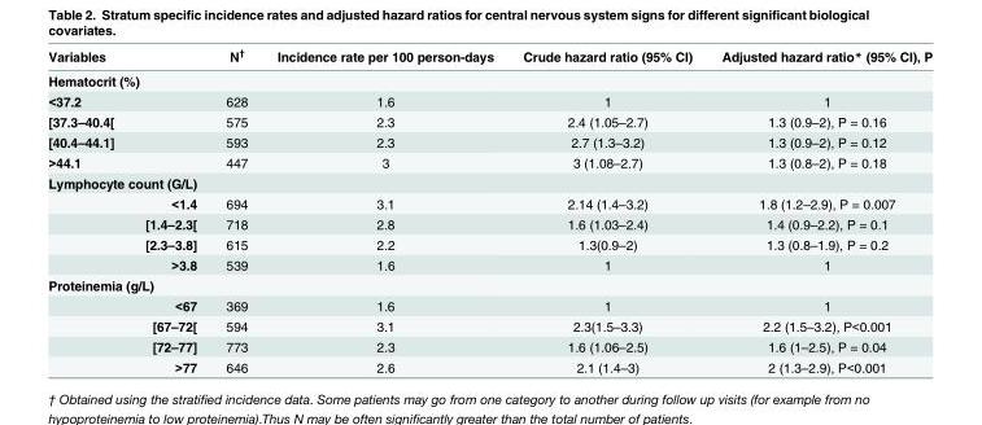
<table><thead><tr><td>Variables</td><td>N<sup>†</sup></td><td>Incidence rate per 100 person-days</td><td>Crude hazard ratio (95% CI)</td><td>Adjusted hazard ratio* (95% CI), P</td></tr></thead><tbody><tr><td colspan="5">Hematocrit (%)</td></tr><tr><td>&lt;37.2</td><td>628</td><td>1.6</td><td>1</td><td>1</td></tr><tr><td>[37.3–40.4[</td><td>575</td><td>2.3</td><td>2.4 (1.05–2.7)</td><td>1.3 (0.9–2), P = 0.16</td></tr><tr><td>[40.4–44.1]</td><td>593</td><td>2.3</td><td>2.7 (1.3–3.2)</td><td>1.3 (0.9–2), P = 0.12</td></tr><tr><td>&gt;44.1</td><td>447</td><td>3</td><td>3 (1.08–2.7)</td><td>1.3 (0.8–2), P = 0.18</td></tr><tr><td colspan="5">Lymphocyte count (G/L)</td></tr><tr><td>&lt;1.4</td><td>694</td><td>3.1</td><td>2.14 (1.4–3.2)</td><td>1.8 (1.2–2.9), P = 0.007</td></tr><tr><td>[1.4–2.3[</td><td>718</td><td>2.8</td><td>1.6 (1.03–2.4)</td><td>1.4 (0.9–2.2), P = 0.1</td></tr><tr><td>[2.3–3.8]</td><td>615</td><td>2.2</td><td>1.3(0.9–2)</td><td>1.3 (0.8–1.9), P = 0.2</td></tr><tr><td>&gt;3.8</td><td>539</td><td>1.6</td><td>1</td><td>1</td></tr><tr><td colspan="5">Proteinemia (g/L)</td></tr><tr><td>&lt;67</td><td>369</td><td>1.6</td><td>1</td><td>1</td></tr><tr><td>[67–72[</td><td>594</td><td>3.1</td><td>2.3(1.5–3.3)</td><td>2.2 (1.5–3.2), P&lt;0.001</td></tr><tr><td>[72–77]</td><td>773</td><td>2.3</td><td>1.6 (1.06–2.5)</td><td>1.6 (1–2.5), P = 0.04</td></tr><tr><td>&gt;77</td><td>646</td><td>2.6</td><td>2.1 (1.4–3)</td><td>2 (1.3–2.9), P&lt;0.001</td></tr></tbody></table>